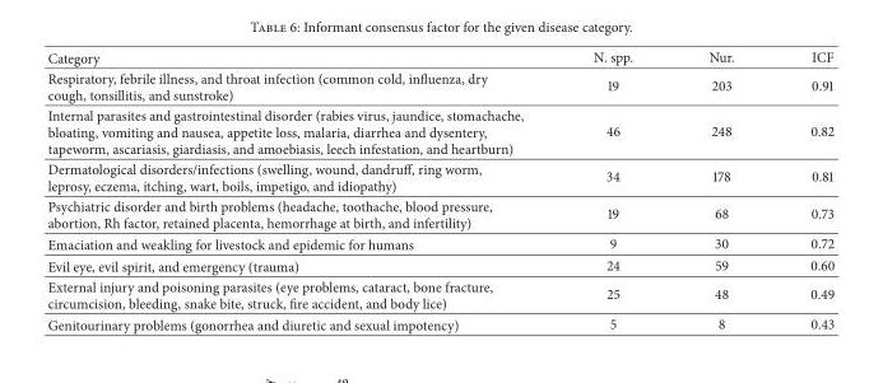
<table><thead><tr><td>Category</td><td>N. spp.</td><td>Nur.</td><td>ICF</td></tr></thead><tbody><tr><td>Respiratory, febrile illness, and throat infection (common cold, influenza, dry cough, tonsillitis, and sunstroke)</td><td>19</td><td>203</td><td>0.91</td></tr><tr><td>Internal parasites and gastrointestinal disorder (rabies virus, jaundice, stomachache, bloating, vomiting and nausea, appetite loss, malaria, diarrhea and dysentery, tapeworm, ascariasis, giardiasis, and amoebiasis, leech infestation, and heartburn)</td><td>46</td><td>248</td><td>0.82</td></tr><tr><td>Dermatological disorders/infections (swelling, wound, dandruff, ring worm, leprosy, eczema, itching, wart, boils, impetigo, and idiopathy)</td><td>34</td><td>178</td><td>0.81</td></tr><tr><td>Psychiatric disorder and birth problems (headache, toothache, blood pressure, abortion, Rh factor, retained placenta, hemorrhage at birth, and infertility)</td><td>19</td><td>68</td><td>0.73</td></tr><tr><td>Emaciation and weakling for livestock and epidemic for humans</td><td>9</td><td>30</td><td>0.72</td></tr><tr><td>Evil eye, evil spirit, and emergency (trauma)</td><td>24</td><td>59</td><td>0.60</td></tr><tr><td>External injury and poisoning parasites (eye problems, cataract, bone fracture, circumcision, bleeding, snake bite, struck, fire accident, and body lice)</td><td>25</td><td>48</td><td>0.49</td></tr><tr><td>Genitourinary problems (gonorrhea and diuretic and sexual impotency)</td><td>5</td><td>8</td><td>0.43</td></tr></tbody></table>